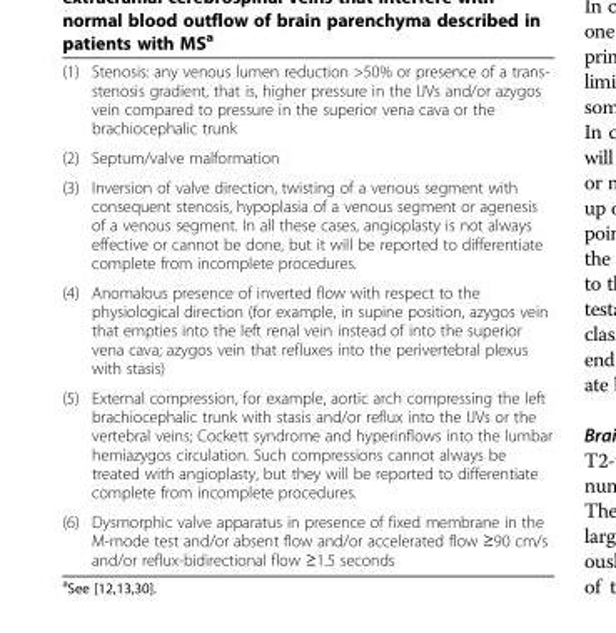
<table><tbody><tr><td>(1)</td><td>Stenosis: any venous lumen reduction &gt;50% or presence of a trans- stenosis gradient, that is, higher pressure in the IJVs and/or azygos vein compared to pressure in the superior vena cava or the brachiocephalic trunk</td></tr><tr><td>(2)</td><td>Septum/valve malformation</td></tr><tr><td>(3)</td><td>Inversion of valve direction, twisting of a venous segment with consequent stenosis, hypoplasia of a venous segment or agenesis of a venous segment. In all these cases, angioplasty is not always effective or cannot be done, but it will be reported to differentiate complete from incomplete procedures.</td></tr><tr><td>(4)</td><td>Anomalous presence of inverted flow with respect to the physiological direction (for example, in supine position, azygos vein that empties into the left renal vein instead of into the superior vena cava; azygos vein that refluxes into the perivertebral plexus with stasis)</td></tr><tr><td>(5)</td><td>External compression, for example, aortic arch compressing the left brachiocephalic trunk with stasis and/or reflux into the IJVs or the vertebral veins; Cockett syndrome and hyperinflows into the lumbar hemiazygos circulation. Such compressions cannot always be treated with angioplasty, but they will be reported to differentiate complete from incomplete procedures.</td></tr><tr><td>(6)</td><td>Dysmorphic valve apparatus in presence of fixed membrane in the M-mode test and/or absent flow and/or accelerated flow ≥90 cm/s and/or reflux-bidirectional flow ≥1.5 seconds</td></tr></tbody></table>